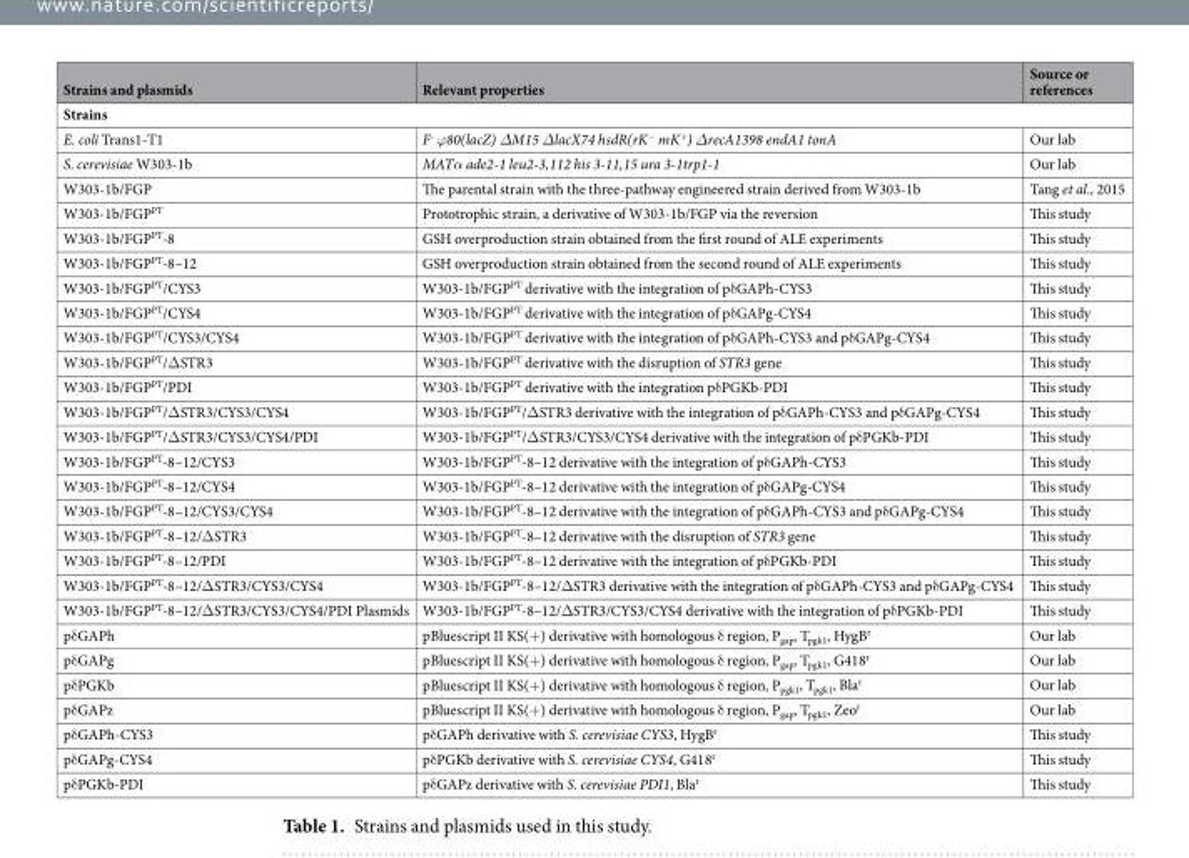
<table><thead><tr><td>Strains and plasmids</td><td>Relevant properties</td><td>Source or references</td></tr></thead><tbody><tr><td colspan="3">Strains</td></tr><tr><td>E. coli Trans1-T1</td><td>F<sup>-</sup> ϕ80(lacZ) ΔM15 ΔlacX74 hsdR(rK<sup>−</sup> mK<sup>+</sup>) ΔrecA1398 endA1 tonA</td><td>Our lab</td></tr><tr><td>S. cerevisiae W303-1b</td><td>MATα ade2-1 leu2-3,112 his 3-11,15 ura 3-1trp1-1</td><td>Our lab</td></tr><tr><td>W303-1b/FGP</td><td>The parental strain with the three-pathway engineered strain derived from W303-1b</td><td>Tang et al., 2015</td></tr><tr><td>W303-1b/FGP<sup>PT</sup></td><td>Prototrophic strain, a derivative of W303-1b/FGP via the reversion</td><td>This study</td></tr><tr><td>W303-1b/FGP<sup>PT</sup>-8</td><td>GSH overproduction strain obtained from the first round of ALE experiments</td><td>This study</td></tr><tr><td>W303-1b/FGP<sup>PT</sup>-8–12</td><td>GSH overproduction strain obtained from the second round of ALE experiments</td><td>This study</td></tr><tr><td>W303-1b/FGP<sup>PT</sup>/CYS3</td><td>W303-1b/FGP<sup>PT</sup> derivative with the integration of pδGAPh-CYS3</td><td>This study</td></tr><tr><td>W303-1b/FGP<sup>PT</sup>/CYS4</td><td>W303-1b/FGP<sup>PT</sup> derivative with the integration of pδGAPg-CYS4</td><td>This study</td></tr><tr><td>W303-1b/FGP<sup>PT</sup>/CYS3/CYS4</td><td>W303-1b/FGP<sup>PT</sup> derivative with the integration of pδGAPh-CYS3 and pδGAPg-CYS4</td><td>This study</td></tr><tr><td>W303-1b/FGP<sup>PT</sup>/ΔSTR3</td><td>W303-1b/FGP<sup>PT</sup> derivative with the disruption of STR3 gene</td><td>This study</td></tr><tr><td>W303-1b/FGP<sup>PT</sup>/PDI</td><td>W303-1b/FGP<sup>PT</sup> derivative with the integration pδPGKb-PDI</td><td>This study</td></tr><tr><td>W303-1b/FGP<sup>PT</sup>/ΔSTR3/CYS3/CYS4</td><td>W303-1b/FGP<sup>PT</sup>/ΔSTR3 derivative with the integration of pδGAPh-CYS3 and pδGAPg-CYS4</td><td>This study</td></tr><tr><td>W303-1b/FGP<sup>PT</sup>/ΔSTR3/CYS3/CYS4/PDI</td><td>W303-1b/FGP<sup>PT</sup>/ΔSTR3/CYS3/CYS4 derivative with the integration of pδPGKb-PDI</td><td>This study</td></tr><tr><td>W303-1b/FGP<sup>PT</sup>-8–12/CYS3</td><td>W303-1b/FGP<sup>PT</sup>-8–12 derivative with the integration of pδGAPh-CYS3</td><td>This study</td></tr><tr><td>W303-1b/FGP<sup>PT</sup>-8–12/CYS4</td><td>W303-1b/FGP<sup>PT</sup>-8–12 derivative with the integration of pδGAPg-CYS4</td><td>This study</td></tr><tr><td>W303-1b/FGP<sup>PT</sup>-8–12/CYS3/CYS4</td><td>W303-1b/FGP<sup>PT</sup>-8–12 derivative with the integration of pδGAPh-CYS3 and pδGAPg-CYS4</td><td>This study</td></tr><tr><td>W303-1b/FGP<sup>PT</sup>-8–12/ΔSTR3</td><td>W303-1b/FGP<sup>PT</sup>-8–12 derivative with the disruption of STR3 gene</td><td>This study</td></tr><tr><td>W303-1b/FGP<sup>PT</sup>-8–12/PDI</td><td>W303-1b/FGP<sup>PT</sup>-8–12 derivative with the integration of pδPGKb-PDI</td><td>This study</td></tr><tr><td>W303-1b/FGP<sup>PT</sup>-8–12/ΔSTR3/CYS3/CYS4</td><td>W303-1b/FGP<sup>PT</sup>-8–12/ΔSTR3 derivative with the integration of pδGAPh-CYS3 and pδGAPg-CYS4</td><td>This study</td></tr><tr><td>W303-1b/FGP<sup>PT</sup>-8–12/ΔSTR3/CYS3/CYS4/PDI Plasmids</td><td>W303-1b/FGP<sup>PT</sup>-8–12/ΔSTR3/CYS3/CYS4 derivative with the integration of pδPGKb-PDI</td><td>This study</td></tr><tr><td>pδGAPh</td><td>pBluescript II KS(+) derivative with homologous δ region, P<sub>gap</sub>, T<sub>pgk1</sub>, HygB<sup>r</sup></td><td>Our lab</td></tr><tr><td>pδGAPg</td><td>pBluescript II KS(+) derivative with homologous δ region, P<sub>gap</sub>, T<sub>pgk1</sub>, G418<sup>r</sup></td><td>Our lab</td></tr><tr><td>pδPGKb</td><td>pBluescript II KS(+) derivative with homologous δ region, P<sub>pgk1</sub>, T<sub>pgk1</sub>, Bla<sup>r</sup></td><td>Our lab</td></tr><tr><td>pδGAPz</td><td>pBluescript II KS(+) derivative with homologous δ region, P<sub>gap</sub>, T<sub>pgk1</sub>, Zeo<sup>r</sup></td><td>Our lab</td></tr><tr><td>pδGAPh-CYS3</td><td>pδGAPh derivative with S. cerevisiae CYS3, HygB<sup>r</sup></td><td>This study</td></tr><tr><td>pδGAPg-CYS4</td><td>pδPGKb derivative with S. cerevisiae CYS4, G418<sup>r</sup></td><td>This study</td></tr><tr><td>pδPGKb-PDI</td><td>pδGAPz derivative with S. cerevisiae PDI1, Bla<sup>r</sup></td><td>This study</td></tr></tbody></table>